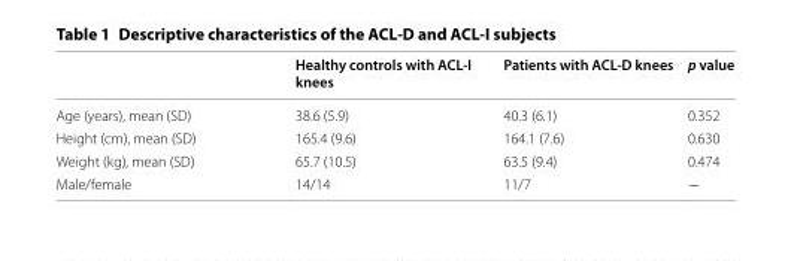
<table><thead><tr><td></td><td>Healthy controls with ACL-I knees</td><td>Patients with ACL-D knees</td><td>p value</td></tr></thead><tbody><tr><td>Age (years), mean (SD)</td><td>38.6 (5.9)</td><td>40.3 (6.1)</td><td>0.352</td></tr><tr><td>Height (cm), mean (SD)</td><td>165.4 (9.6)</td><td>164.1 (7.6)</td><td>0.630</td></tr><tr><td>Weight (kg), mean (SD)</td><td>65.7 (10.5)</td><td>63.5 (9.4)</td><td>0.474</td></tr><tr><td>Male/female</td><td>14/14</td><td>11/7</td><td>−</td></tr></tbody></table>